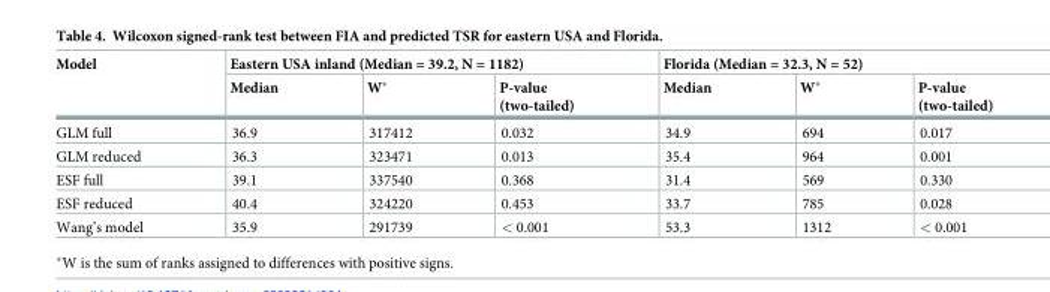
<table><thead><tr><td rowspan="2">Model</td><td colspan="3">Eastern USA inland (Median = 39.2, N = 1182)</td><td colspan="3">Florida (Median = 32.3, N = 52)</td></tr><tr><td>Median</td><td>W*</td><td>P-value (two-tailed)</td><td>Median</td><td>W*</td><td>P-value (two-tailed)</td></tr></thead><tbody><tr><td>GLM full</td><td>36.9</td><td>317412</td><td>0.032</td><td>34.9</td><td>694</td><td>0.017</td></tr><tr><td>GLM reduced</td><td>36.3</td><td>323471</td><td>0.013</td><td>35.4</td><td>964</td><td>0.001</td></tr><tr><td>ESF full</td><td>39.1</td><td>337540</td><td>0.368</td><td>31.4</td><td>569</td><td>0.330</td></tr><tr><td>ESF reduced</td><td>40.4</td><td>324220</td><td>0.453</td><td>33.7</td><td>785</td><td>0.028</td></tr><tr><td>Wang’s model</td><td>35.9</td><td>291739</td><td>&lt; 0.001</td><td>53.3</td><td>1312</td><td>&lt; 0.001</td></tr></tbody></table>